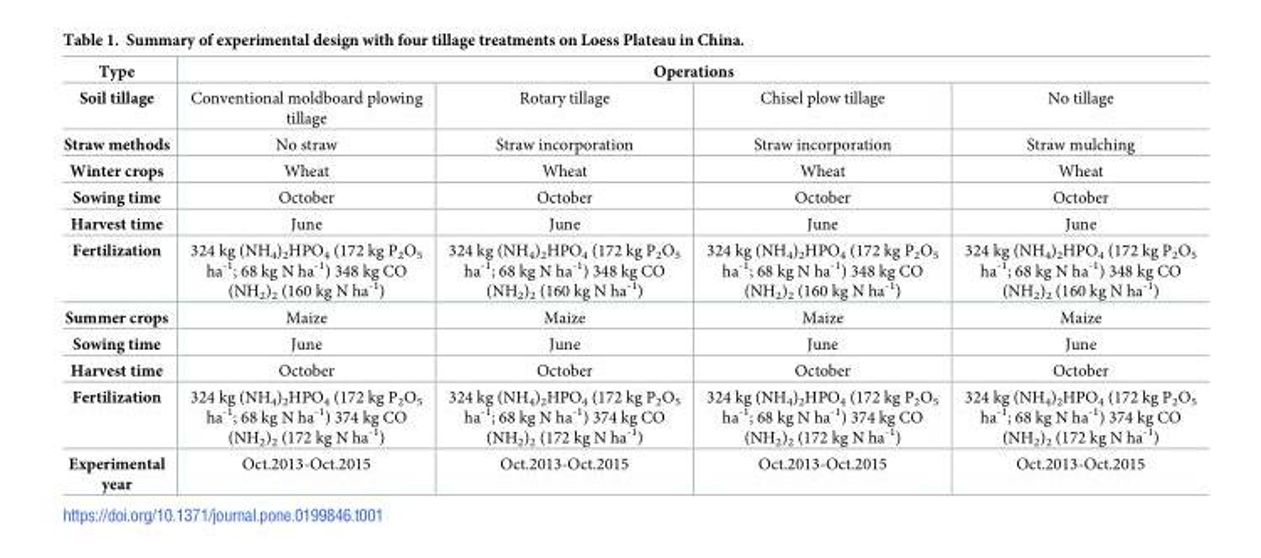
<table><thead><tr><td rowspan="2">Type Soil tillage</td><td colspan="4">Operations</td></tr><tr><td>Conventional moldboard plowing tillage</td><td>Rotary tillage</td><td>Chisel plow tillage</td><td>No tillage</td></tr></thead><tbody><tr><td>Straw methods</td><td>No straw</td><td>Straw incorporation</td><td>Straw incorporation</td><td>Straw mulching</td></tr><tr><td>Winter crops</td><td>Wheat</td><td>Wheat</td><td>Wheat</td><td>Wheat</td></tr><tr><td>Sowing time</td><td>October</td><td>October</td><td>October</td><td>October</td></tr><tr><td>Harvest time</td><td>June</td><td>June</td><td>June</td><td>June</td></tr><tr><td>Fertilization</td><td>324 kg (NH<sub>4</sub>)<sub>2</sub>HPO<sub>4</sub> (172 kg P<sub>2</sub>O<sub>5</sub> ha<sup>-1</sup>; 68 kg N ha<sup>-1</sup>) 348 kg CO (NH<sub>2</sub>)<sub>2</sub> (160 kg N ha<sup>-1</sup>)</td><td>324 kg (NH<sub>4</sub>)<sub>2</sub>HPO<sub>4</sub> (172 kg P<sub>2</sub>O<sub>5</sub> ha<sup>-1</sup>; 68 kg N ha<sup>-1</sup>) 348 kg CO (NH<sub>2</sub>)<sub>2</sub> (160 kg N ha<sup>-1</sup>)</td><td>324 kg (NH<sub>4</sub>)<sub>2</sub>HPO<sub>4</sub> (172 kg P<sub>2</sub>O<sub>5</sub> ha<sup>-1</sup>; 68 kg N ha<sup>-1</sup>) 348 kg CO (NH<sub>2</sub>)<sub>2</sub> (160 kg N ha<sup>-1</sup>)</td><td>324 kg (NH<sub>4</sub>)<sub>2</sub>HPO<sub>4</sub> (172 kg P<sub>2</sub>O<sub>5</sub> ha<sup>-1</sup>; 68 kg N ha<sup>-1</sup>) 348 kg CO (NH<sub>2</sub>)<sub>2</sub> (160 kg N ha<sup>-1</sup>)</td></tr><tr><td>Summer crops</td><td>Maize</td><td>Maize</td><td>Maize</td><td>Maize</td></tr><tr><td>Sowing time</td><td>June</td><td>June</td><td>June</td><td>June</td></tr><tr><td>Harvest time</td><td>October</td><td>October</td><td>October</td><td>October</td></tr><tr><td>Fertilization</td><td>324 kg (NH<sub>4</sub>)<sub>2</sub>HPO<sub>4</sub> (172 kg P<sub>2</sub>O<sub>5</sub> ha<sup>-1</sup>; 68 kg N ha<sup>-1</sup>) 374 kg CO (NH<sub>2</sub>)<sub>2</sub> (172 kg N ha<sup>-1</sup>)</td><td>324 kg (NH<sub>4</sub>)<sub>2</sub>HPO<sub>4</sub> (172 kg P<sub>2</sub>O<sub>5</sub> ha<sup>-1</sup>; 68 kg N ha<sup>-1</sup>) 374 kg CO (NH<sub>2</sub>)<sub>2</sub> (172 kg N ha<sup>-1</sup>)</td><td>324 kg (NH<sub>4</sub>)<sub>2</sub>HPO<sub>4</sub> (172 kg P<sub>2</sub>O<sub>5</sub> ha<sup>-1</sup>; 68 kg N ha<sup>-1</sup>) 374 kg CO (NH<sub>2</sub>)<sub>2</sub> (172 kg N ha<sup>-1</sup>)</td><td>324 kg (NH<sub>4</sub>)<sub>2</sub>HPO<sub>4</sub> (172 kg P<sub>2</sub>O<sub>5</sub> ha<sup>-1</sup>; 68 kg N ha<sup>-1</sup>) 374 kg CO (NH<sub>2</sub>)<sub>2</sub> (172 kg N ha<sup>-1</sup>)</td></tr><tr><td>Experimental year</td><td>Oct.2013-Oct.2015</td><td>Oct.2013-Oct.2015</td><td>Oct.2013-Oct.2015</td><td>Oct.2013-Oct.2015</td></tr></tbody></table>